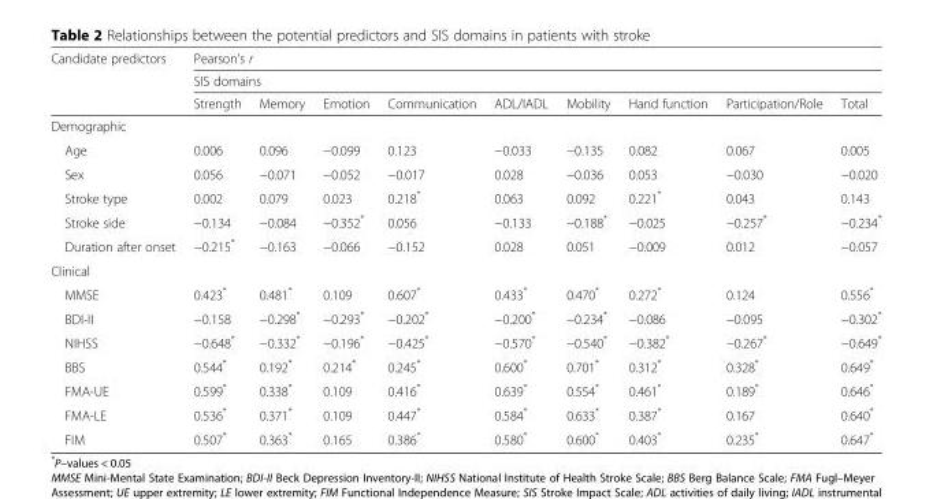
<table><thead><tr><td rowspan="3">Candidate predictors</td><td rowspan="2" colspan="9">Pearson&#x27;s r SIS domains</td></tr><tr></tr><tr><td>Strength</td><td>Memory</td><td>Emotion</td><td>Communication</td><td>ADL/IADL</td><td>Mobility</td><td>Hand function</td><td>Participation/Role</td><td>Total</td></tr></thead><tbody><tr><td colspan="10">Demographic</td></tr><tr><td>Age</td><td>0.006</td><td>0.096</td><td>−0.099</td><td>0.123</td><td>−0.033</td><td>−0.135</td><td>0.082</td><td>0.067</td><td>0.005</td></tr><tr><td>Sex</td><td>0.056</td><td>−0.071</td><td>−0.052</td><td>−0.017</td><td>0.028</td><td>−0.036</td><td>0.053</td><td>−0.030</td><td>−0.020</td></tr><tr><td>Stroke type</td><td>0.002</td><td>0.079</td><td>0.023</td><td>0.218*</td><td>0.063</td><td>0.092</td><td>0.221*</td><td>0.043</td><td>0.143</td></tr><tr><td>Stroke side</td><td>−0.134</td><td>−0.084</td><td>−0.352*</td><td>0.056</td><td>−0.133</td><td>−0.188*</td><td>−0.025</td><td>−0.257*</td><td>−0.234*</td></tr><tr><td>Duration after onset</td><td>−0.215*</td><td>−0.163</td><td>−0.066</td><td>−0.152</td><td>0.028</td><td>0.051</td><td>−0.009</td><td>0.012</td><td>−0.057</td></tr><tr><td colspan="10">Clinical</td></tr><tr><td>MMSE</td><td>0.423*</td><td>0.481*</td><td>0.109</td><td>0.607*</td><td>0.433*</td><td>0.470*</td><td>0.272*</td><td>0.124</td><td>0.556*</td></tr><tr><td>BDI-II</td><td>−0.158</td><td>−0.298*</td><td>−0.293*</td><td>−0.202*</td><td>−0.200*</td><td>−0.234*</td><td>−0.086</td><td>−0.095</td><td>−0.302*</td></tr><tr><td>NIHSS</td><td>−0.648*</td><td>−0.332*</td><td>−0.196*</td><td>−0.425*</td><td>−0.570*</td><td>−0.540*</td><td>−0.382*</td><td>−0.267*</td><td>−0.649*</td></tr><tr><td>BBS</td><td>0.544*</td><td>0.192*</td><td>0.214*</td><td>0.245*</td><td>0.600*</td><td>0.701*</td><td>0.312*</td><td>0.328*</td><td>0.649*</td></tr><tr><td>FMA-UE</td><td>0.599*</td><td>0.338*</td><td>0.109</td><td>0.416*</td><td>0.639*</td><td>0.554*</td><td>0.461*</td><td>0.189*</td><td>0.646*</td></tr><tr><td>FMA-LE</td><td>0.536*</td><td>0.371*</td><td>0.109</td><td>0.447*</td><td>0.584*</td><td>0.633*</td><td>0.387*</td><td>0.167</td><td>0.640*</td></tr><tr><td>FIM</td><td>0.507*</td><td>0.363*</td><td>0.165</td><td>0.386*</td><td>0.580*</td><td>0.600*</td><td>0.403*</td><td>0.235*</td><td>0.647*</td></tr></tbody></table>